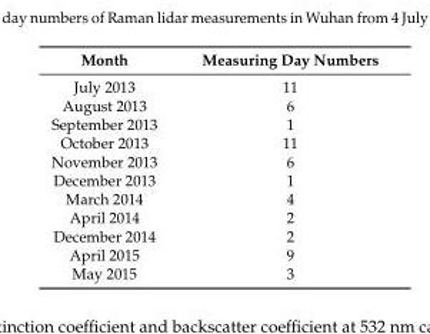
<table><thead><tr><td>Month</td><td>Measuring Day Numbers</td></tr></thead><tbody><tr><td>July 2013</td><td>11</td></tr><tr><td>August 2013</td><td>6</td></tr><tr><td>September 2013</td><td>1</td></tr><tr><td>October 2013</td><td>11</td></tr><tr><td>November 2013</td><td>6</td></tr><tr><td>December 2013</td><td>1</td></tr><tr><td>March 2014</td><td>4</td></tr><tr><td>April 2014</td><td>2</td></tr><tr><td>December 2014</td><td>2</td></tr><tr><td>April 2015</td><td>9</td></tr><tr><td>May 2015</td><td>3</td></tr></tbody></table>